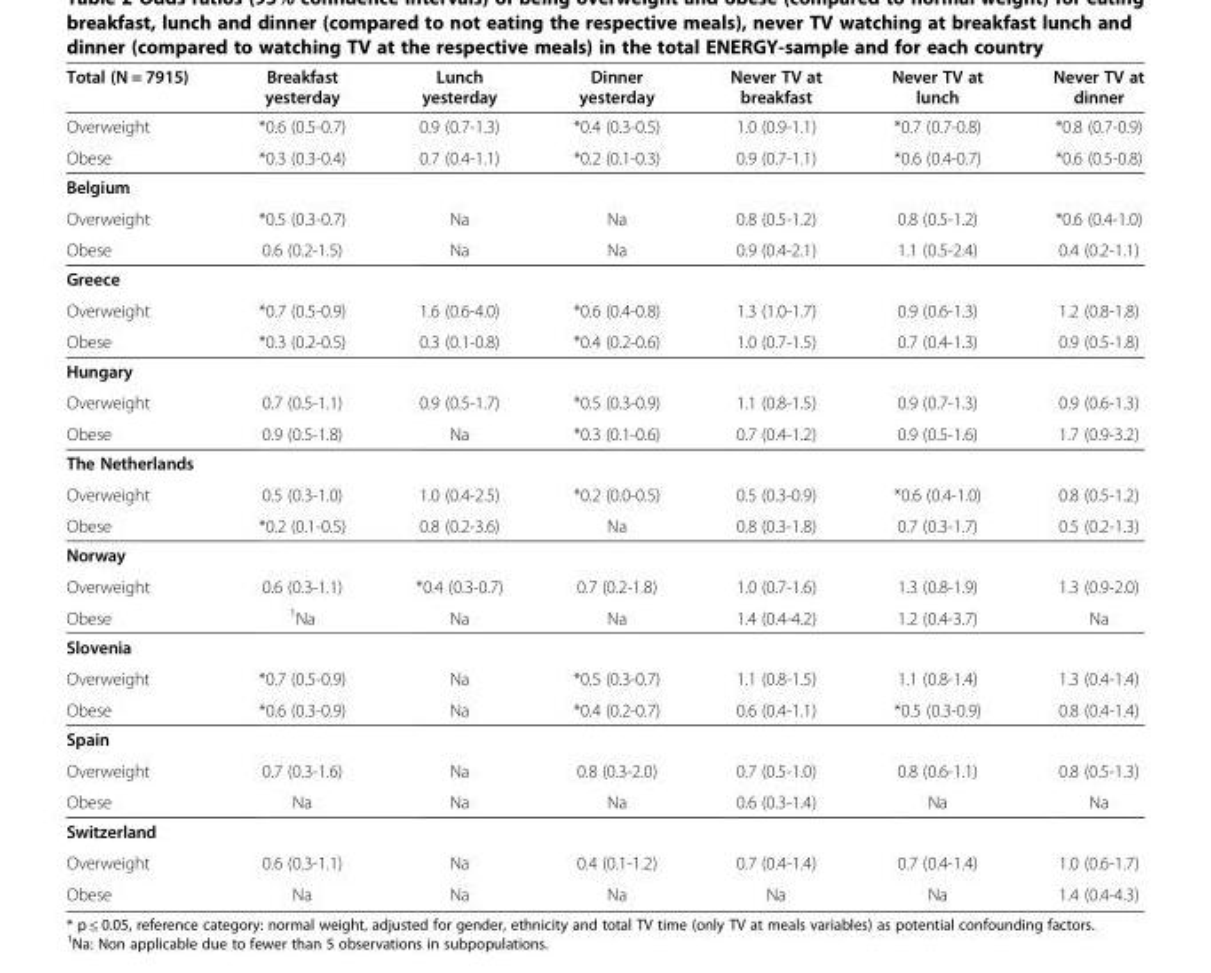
<table><thead><tr><td>Total (N = 7915)</td><td>Breakfast yesterday</td><td>Lunch yesterday</td><td>Dinner yesterday</td><td>Never TV at breakfast</td><td>Never TV at lunch</td><td>Never TV at dinner</td></tr></thead><tbody><tr><td>Overweight</td><td>*0.6 (0.5-0.7)</td><td>0.9 (0.7-1.3)</td><td>*0.4 (0.3-0.5)</td><td>1.0 (0.9-1.1)</td><td>*0.7 (0.7-0.8)</td><td>*0.8 (0.7-0.9)</td></tr><tr><td>Obese</td><td>*0.3 (0.3-0.4)</td><td>0.7 (0.4-1.1)</td><td>*0.2 (0.1-0.3)</td><td>0.9 (0.7-1.1)</td><td>*0.6 (0.4-0.7)</td><td>*0.6 (0.5-0.8)</td></tr><tr><td colspan="7">Belgium</td></tr><tr><td>Overweight</td><td>*0.5 (0.3-0.7)</td><td>Na</td><td>Na</td><td>0.8 (0.5-1.2)</td><td>0.8 (0.5-1.2)</td><td>*0.6 (0.4-1.0)</td></tr><tr><td>Obese</td><td>0.6 (0.2-1.5)</td><td>Na</td><td>Na</td><td>0.9 (0.4-2.1)</td><td>1.1 (0.5-2.4)</td><td>0.4 (0.2-1.1)</td></tr><tr><td colspan="7">Greece</td></tr><tr><td>Overweight</td><td>*0.7 (0.5-0.9)</td><td>1.6 (0.6-4.0)</td><td>*0.6 (0.4-0.8)</td><td>1.3 (1.0-1.7)</td><td>0.9 (0.6-1.3)</td><td>1.2 (0.8-1.8)</td></tr><tr><td>Obese</td><td>*0.3 (0.2-0.5)</td><td>0.3 (0.1-0.8)</td><td>*0.4 (0.2-0.6)</td><td>1.0 (0.7-1.5)</td><td>0.7 (0.4-1.3)</td><td>0.9 (0.5-1.8)</td></tr><tr><td colspan="7">Hungary</td></tr><tr><td>Overweight</td><td>0.7 (0.5-1.1)</td><td>0.9 (0.5-1.7)</td><td>*0.5 (0.3-0.9)</td><td>1.1 (0.8-1.5)</td><td>0.9 (0.7-1.3)</td><td>0.9 (0.6-1.3)</td></tr><tr><td>Obese</td><td>0.9 (0.5-1.8)</td><td>Na</td><td>*0.3 (0.1-0.6)</td><td>0.7 (0.4-1.2)</td><td>0.9 (0.5-1.6)</td><td>1.7 (0.9-3.2)</td></tr><tr><td colspan="7">The Netherlands</td></tr><tr><td>Overweight</td><td>0.5 (0.3-1.0)</td><td>1.0 (0.4-2.5)</td><td>*0.2 (0.0-0.5)</td><td>0.5 (0.3-0.9)</td><td>*0.6 (0.4-1.0)</td><td>0.8 (0.5-1.2)</td></tr><tr><td>Obese</td><td>*0.2 (0.1-0.5)</td><td>0.8 (0.2-3.6)</td><td>Na</td><td>0.8 (0.3-1.8)</td><td>0.7 (0.3-1.7)</td><td>0.5 (0.2-1.3)</td></tr><tr><td colspan="7">Norway</td></tr><tr><td>Overweight</td><td>0.6 (0.3-1.1)</td><td>*0.4 (0.3-0.7)</td><td>0.7 (0.2-1.8)</td><td>1.0 (0.7-1.6)</td><td>1.3 (0.8-1.9)</td><td>1.3 (0.9-2.0)</td></tr><tr><td>Obese</td><td><sup>1</sup>Na</td><td>Na</td><td>Na</td><td>1.4 (0.4-4.2)</td><td>1.2 (0.4-3.7)</td><td>Na</td></tr><tr><td colspan="7">Slovenia</td></tr><tr><td>Overweight</td><td>*0.7 (0.5-0.9)</td><td>Na</td><td>*0.5 (0.3-0.7)</td><td>1.1 (0.8-1.5)</td><td>1.1 (0.8-1.4)</td><td>1.3 (0.4-1.4)</td></tr><tr><td>Obese</td><td>*0.6 (0.3-0.9)</td><td>Na</td><td>*0.4 (0.2-0.7)</td><td>0.6 (0.4-1.1)</td><td>*0.5 (0.3-0.9)</td><td>0.8 (0.4-1.4)</td></tr><tr><td colspan="7">Spain</td></tr><tr><td>Overweight</td><td>0.7 (0.3-1.6)</td><td>Na</td><td>0.8 (0.3-2.0)</td><td>0.7 (0.5-1.0)</td><td>0.8 (0.6-1.1)</td><td>0.8 (0.5-1.3)</td></tr><tr><td>Obese</td><td>Na</td><td>Na</td><td>Na</td><td>0.6 (0.3-1.4)</td><td>Na</td><td>Na</td></tr><tr><td colspan="7">Switzerland</td></tr><tr><td>Overweight</td><td>0.6 (0.3-1.1)</td><td>Na</td><td>0.4 (0.1-1.2)</td><td>0.7 (0.4-1.4)</td><td>0.7 (0.4-1.4)</td><td>1.0 (0.6-1.7)</td></tr><tr><td>Obese</td><td>Na</td><td>Na</td><td>Na</td><td>Na</td><td>Na</td><td>1.4 (0.4-4.3)</td></tr></tbody></table>